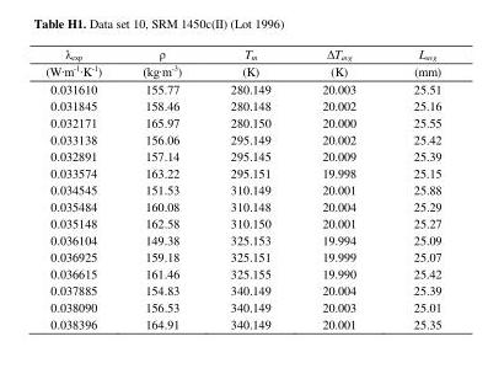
<table><thead><tr><td rowspan="2">λexp (W∙m-1∙K-1)</td><td rowspan="2">ρ (kg∙m-3)</td><td rowspan="2">Tm (K)</td><td rowspan="2">ΔTavg (K)</td><td rowspan="2">Lavg (mm)</td></tr><tr></tr></thead><tbody><tr><td>0.031610</td><td>155.77</td><td>280.149</td><td>20.003</td><td>25.51</td></tr><tr><td>0.031845</td><td>158.46</td><td>280.148</td><td>20.002</td><td>25.16</td></tr><tr><td>0.032171</td><td>165.97</td><td>280.150</td><td>20.000</td><td>25.55</td></tr><tr><td>0.033138</td><td>156.06</td><td>295.149</td><td>20.002</td><td>25.42</td></tr><tr><td>0.032891</td><td>157.14</td><td>295.145</td><td>20.009</td><td>25.39</td></tr><tr><td>0.033574</td><td>163.22</td><td>295.151</td><td>19.998</td><td>25.15</td></tr><tr><td>0.034545</td><td>151.53</td><td>310.149</td><td>20.001</td><td>25.88</td></tr><tr><td>0.035484</td><td>160.08</td><td>310.148</td><td>20.004</td><td>25.29</td></tr><tr><td>0.035148</td><td>162.58</td><td>310.150</td><td>20.001</td><td>25.27</td></tr><tr><td>0.036104</td><td>149.38</td><td>325.153</td><td>19.994</td><td>25.09</td></tr><tr><td>0.036925</td><td>159.18</td><td>325.151</td><td>19.999</td><td>25.07</td></tr><tr><td>0.036615</td><td>161.46</td><td>325.155</td><td>19.990</td><td>25.42</td></tr><tr><td>0.037885</td><td>154.83</td><td>340.149</td><td>20.004</td><td>25.39</td></tr><tr><td>0.038090</td><td>156.53</td><td>340.149</td><td>20.003</td><td>25.01</td></tr><tr><td>0.038396</td><td>164.91</td><td>340.149</td><td>20.001</td><td>25.35</td></tr></tbody></table>